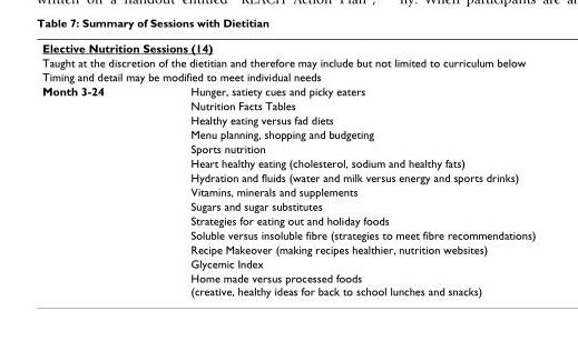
<table><tbody><tr><td colspan="2">Elective Nutrition Sessions (14)</td></tr><tr><td colspan="2">Taught at the discretion of the dietitian and therefore may include but not limited to curriculum below</td></tr><tr><td colspan="2">Timing and detail may be modified to meet individual needs</td></tr><tr><td rowspan="14">Month 3-24</td><td>Hunger, satiety cues and picky eaters</td></tr><tr><td>Nutrition Facts Tables</td></tr><tr><td>Healthy eating versus fad diets</td></tr><tr><td>Menu planning, shopping and budgeting</td></tr><tr><td>Sports nutrition</td></tr><tr><td>Heart healthy eating (cholesterol, sodium and healthy fats)</td></tr><tr><td>Hydration and fluids (water and milk versus energy and sports drinks)</td></tr><tr><td>Vitamins, minerals and supplements</td></tr><tr><td>Sugars and sugar substitutes</td></tr><tr><td>Strategies for eating out and holiday foods</td></tr><tr><td>Soluble versus insoluble fibre (strategies to meet fibre recommendations)</td></tr><tr><td>Recipe Makeover (making recipes healthier, nutrition websites)</td></tr><tr><td>Glycemic Index</td></tr><tr><td>Home made versus processed foods (creative, healthy ideas for back to school lunches and snacks)</td></tr></tbody></table>